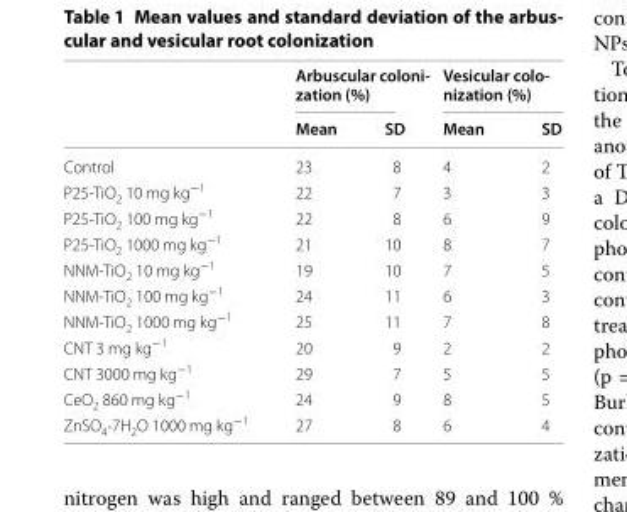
<table><thead><tr><td rowspan="2"></td><td colspan="2">Arbuscular coloni- zation (%)</td><td colspan="2">Vesicular colo- nization (%)</td></tr><tr><td>Mean</td><td>SD</td><td>Mean</td><td>SD</td></tr></thead><tbody><tr><td>Control</td><td>23</td><td>8</td><td>4</td><td>2</td></tr><tr><td>P25-TiO<sub>2</sub> 10 mg kg<sup>−1</sup></td><td>22</td><td>7</td><td>3</td><td>3</td></tr><tr><td>P25-TiO<sub>2</sub> 100 mg kg<sup>−1</sup></td><td>22</td><td>8</td><td>6</td><td>9</td></tr><tr><td>P25-TiO<sub>2</sub> 1000 mg kg<sup>−1</sup></td><td>21</td><td>10</td><td>8</td><td>7</td></tr><tr><td>NNM-TiO<sub>2</sub> 10 mg kg<sup>−1</sup></td><td>19</td><td>10</td><td>7</td><td>5</td></tr><tr><td>NNM-TiO<sub>2</sub> 100 mg kg<sup>−1</sup></td><td>24</td><td>11</td><td>6</td><td>3</td></tr><tr><td>NNM-TiO<sub>2</sub> 1000 mg kg<sup>−1</sup></td><td>25</td><td>11</td><td>7</td><td>8</td></tr><tr><td>CNT 3 mg kg<sup>−1</sup></td><td>20</td><td>9</td><td>2</td><td>2</td></tr><tr><td>CNT 3000 mg kg<sup>−1</sup></td><td>29</td><td>7</td><td>5</td><td>5</td></tr><tr><td>CeO<sub>2</sub> 860 mg kg<sup>−1</sup></td><td>24</td><td>9</td><td>8</td><td>5</td></tr><tr><td>ZnSO<sub>4</sub>·7H<sub>2</sub>O 1000 mg kg<sup>−1</sup></td><td>27</td><td>8</td><td>6</td><td>4</td></tr></tbody></table>